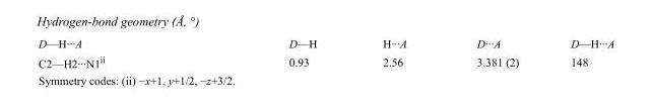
<table><tbody><tr><td>D—H···A</td><td>D—H</td><td>H···A</td><td>D···A</td><td>D—H···A</td></tr><tr><td>C2—H2···N1<sup>ii</sup></td><td>0.93</td><td>2.56</td><td>3.381 (2)</td><td>148</td></tr></tbody></table>